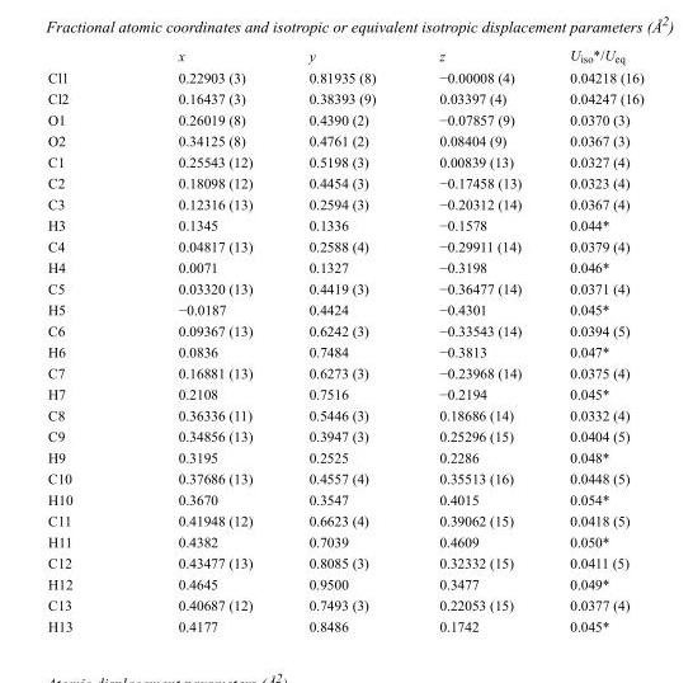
<table><thead><tr><td></td><td>x</td><td>y</td><td>z</td><td>U<sub>iso</sub>*/U<sub>eq</sub></td></tr></thead><tbody><tr><td>Cl1</td><td>0.22903 (3)</td><td>0.81935 (8)</td><td>−0.00008 (4)</td><td>0.04218 (16)</td></tr><tr><td>Cl2</td><td>0.16437 (3)</td><td>0.38393 (9)</td><td>0.03397 (4)</td><td>0.04247 (16)</td></tr><tr><td>O1</td><td>0.26019 (8)</td><td>0.4390 (2)</td><td>−0.07857 (9)</td><td>0.0370 (3)</td></tr><tr><td>O2</td><td>0.34125 (8)</td><td>0.4761 (2)</td><td>0.08404 (9)</td><td>0.0367 (3)</td></tr><tr><td>C1</td><td>0.25543 (12)</td><td>0.5198 (3)</td><td>0.00839 (13)</td><td>0.0327 (4)</td></tr><tr><td>C2</td><td>0.18098 (12)</td><td>0.4454 (3)</td><td>−0.17458 (13)</td><td>0.0323 (4)</td></tr><tr><td>C3</td><td>0.12316 (13)</td><td>0.2594 (3)</td><td>−0.20312 (14)</td><td>0.0367 (4)</td></tr><tr><td>H3</td><td>0.1345</td><td>0.1336</td><td>−0.1578</td><td>0.044*</td></tr><tr><td>C4</td><td>0.04817 (13)</td><td>0.2588 (4)</td><td>−0.29911 (14)</td><td>0.0379 (4)</td></tr><tr><td>H4</td><td>0.0071</td><td>0.1327</td><td>−0.3198</td><td>0.046*</td></tr><tr><td>C5</td><td>0.03320 (13)</td><td>0.4419 (3)</td><td>−0.36477 (14)</td><td>0.0371 (4)</td></tr><tr><td>H5</td><td>−0.0187</td><td>0.4424</td><td>−0.4301</td><td>0.045*</td></tr><tr><td>C6</td><td>0.09367 (13)</td><td>0.6242 (3)</td><td>−0.33543 (14)</td><td>0.0394 (5)</td></tr><tr><td>H6</td><td>0.0836</td><td>0.7484</td><td>−0.3813</td><td>0.047*</td></tr><tr><td>C7</td><td>0.16881 (13)</td><td>0.6273 (3)</td><td>−0.23968 (14)</td><td>0.0375 (4)</td></tr><tr><td>H7</td><td>0.2108</td><td>0.7516</td><td>−0.2194</td><td>0.045*</td></tr><tr><td>C8</td><td>0.36336 (11)</td><td>0.5446 (3)</td><td>0.18686 (14)</td><td>0.0332 (4)</td></tr><tr><td>C9</td><td>0.34856 (13)</td><td>0.3947 (3)</td><td>0.25296 (15)</td><td>0.0404 (5)</td></tr><tr><td>H9</td><td>0.3195</td><td>0.2525</td><td>0.2286</td><td>0.048*</td></tr><tr><td>C10</td><td>0.37686 (13)</td><td>0.4557 (4)</td><td>0.35513 (16)</td><td>0.0448 (5)</td></tr><tr><td>H10</td><td>0.3670</td><td>0.3547</td><td>0.4015</td><td>0.054*</td></tr><tr><td>C11</td><td>0.41948 (12)</td><td>0.6623 (4)</td><td>0.39062 (15)</td><td>0.0418 (5)</td></tr><tr><td>H11</td><td>0.4382</td><td>0.7039</td><td>0.4609</td><td>0.050*</td></tr><tr><td>C12</td><td>0.43477 (13)</td><td>0.8085 (3)</td><td>0.32332 (15)</td><td>0.0411 (5)</td></tr><tr><td>H12</td><td>0.4645</td><td>0.9500</td><td>0.3477</td><td>0.049*</td></tr><tr><td>C13</td><td>0.40687 (12)</td><td>0.7493 (3)</td><td>0.22053 (15)</td><td>0.0377 (4)</td></tr><tr><td>H13</td><td>0.4177</td><td>0.8486</td><td>0.1742</td><td>0.045*</td></tr></tbody></table>